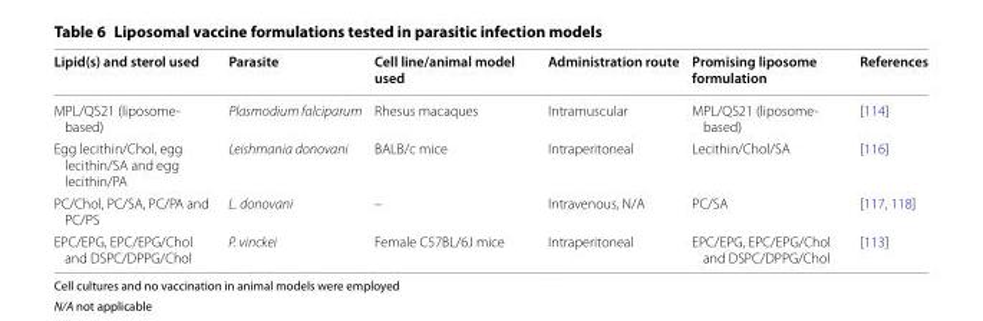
<table><thead><tr><td>Lipid(s) and sterol used</td><td>Parasite</td><td>Cell line/animal model used</td><td>Administration route</td><td>Promising liposome formulation</td><td>References</td></tr></thead><tbody><tr><td>MPL/QS21 (liposome- based)</td><td>Plasmodium falciparum</td><td>Rhesus macaques</td><td>Intramuscular</td><td>MPL/QS21 (liposome- based)</td><td>[114]</td></tr><tr><td>Egg lecithin/Chol, egg lecithin/SA and egg lecithin/PA</td><td>Leishmania donovani</td><td>BALB/c mice</td><td>Intraperitoneal</td><td>Lecithin/Chol/SA</td><td>[116]</td></tr><tr><td>PC/Chol, PC/SA, PC/PA and PC/PS</td><td>L. donovani</td><td>–</td><td>Intravenous, N/A</td><td>PC/SA</td><td>[117, 118]</td></tr><tr><td>EPC/EPG, EPC/EPG/Chol and DSPC/DPPG/Chol</td><td>P. vinckei</td><td>Female C57BL/6J mice</td><td>Intraperitoneal</td><td>EPC/EPG, EPC/EPG/Chol and DSPC/DPPG/Chol</td><td>[113]</td></tr></tbody></table>